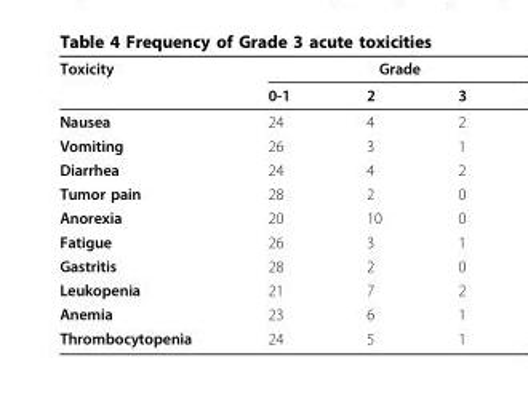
<table><thead><tr><td rowspan="2">Toxicity</td><td colspan="3">Grade</td></tr><tr><td>0-1</td><td>2</td><td>3</td></tr></thead><tbody><tr><td>Nausea</td><td>24</td><td>4</td><td>2</td></tr><tr><td>Vomiting</td><td>26</td><td>3</td><td>1</td></tr><tr><td>Diarrhea</td><td>24</td><td>4</td><td>2</td></tr><tr><td>Tumor pain</td><td>28</td><td>2</td><td>0</td></tr><tr><td>Anorexia</td><td>20</td><td>10</td><td>0</td></tr><tr><td>Fatigue</td><td>26</td><td>3</td><td>1</td></tr><tr><td>Gastritis</td><td>28</td><td>2</td><td>0</td></tr><tr><td>Leukopenia</td><td>21</td><td>7</td><td>2</td></tr><tr><td>Anemia</td><td>23</td><td>6</td><td>1</td></tr><tr><td>Thrombocytopenia</td><td>24</td><td>5</td><td>1</td></tr></tbody></table>